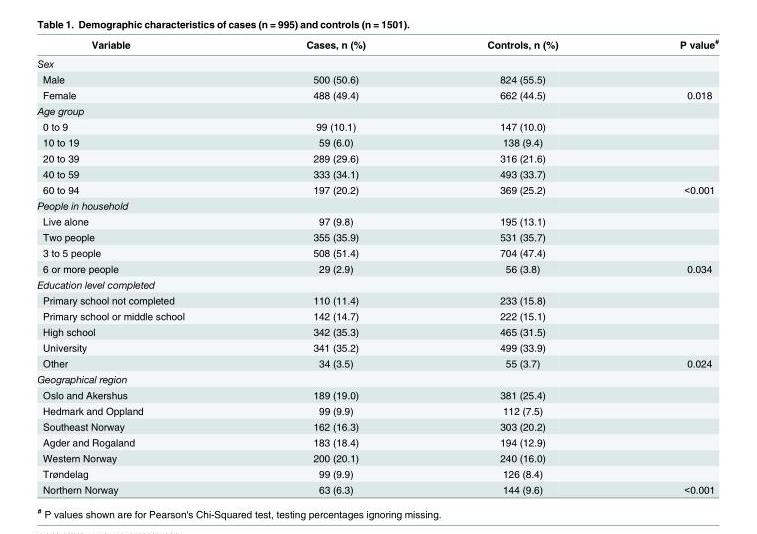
<table><thead><tr><td>Variable</td><td>Cases, n (%)</td><td>Controls, n (%)</td><td>P value<sup>#</sup></td></tr></thead><tbody><tr><td colspan="4">Sex</td></tr><tr><td>Male</td><td>500 (50.6)</td><td>824 (55.5)</td><td></td></tr><tr><td>Female</td><td>488 (49.4)</td><td>662 (44.5)</td><td>0.018</td></tr><tr><td colspan="4">Age group</td></tr><tr><td>0 to 9</td><td>99 (10.1)</td><td>147 (10.0)</td><td></td></tr><tr><td>10 to 19</td><td>59 (6.0)</td><td>138 (9.4)</td><td></td></tr><tr><td>20 to 39</td><td>289 (29.6)</td><td>316 (21.6)</td><td></td></tr><tr><td>40 to 59</td><td>333 (34.1)</td><td>493 (33.7)</td><td></td></tr><tr><td>60 to 94</td><td>197 (20.2)</td><td>369 (25.2)</td><td>&lt;0.001</td></tr><tr><td colspan="4">People in household</td></tr><tr><td>Live alone</td><td>97 (9.8)</td><td>195 (13.1)</td><td></td></tr><tr><td>Two people</td><td>355 (35.9)</td><td>531 (35.7)</td><td></td></tr><tr><td>3 to 5 people</td><td>508 (51.4)</td><td>704 (47.4)</td><td></td></tr><tr><td>6 or more people</td><td>29 (2.9)</td><td>56 (3.8)</td><td>0.034</td></tr><tr><td colspan="4">Education level completed</td></tr><tr><td>Primary school not completed</td><td>110 (11.4)</td><td>233 (15.8)</td><td></td></tr><tr><td>Primary school or middle school</td><td>142 (14.7)</td><td>222 (15.1)</td><td></td></tr><tr><td>High school</td><td>342 (35.3)</td><td>465 (31.5)</td><td></td></tr><tr><td>University</td><td>341 (35.2)</td><td>499 (33.9)</td><td></td></tr><tr><td>Other</td><td>34 (3.5)</td><td>55 (3.7)</td><td>0.024</td></tr><tr><td colspan="4">Geographical region</td></tr><tr><td>Oslo and Akershus</td><td>189 (19.0)</td><td>381 (25.4)</td><td></td></tr><tr><td>Hedmark and Oppland</td><td>99 (9.9)</td><td>112 (7.5)</td><td></td></tr><tr><td>Southeast Norway</td><td>162 (16.3)</td><td>303 (20.2)</td><td></td></tr><tr><td>Agder and Rogaland</td><td>183 (18.4)</td><td>194 (12.9)</td><td></td></tr><tr><td>Western Norway</td><td>200 (20.1)</td><td>240 (16.0)</td><td></td></tr><tr><td>Trøndelag</td><td>99 (9.9)</td><td>126 (8.4)</td><td></td></tr><tr><td>Northern Norway</td><td>63 (6.3)</td><td>144 (9.6)</td><td>&lt;0.001</td></tr></tbody></table>